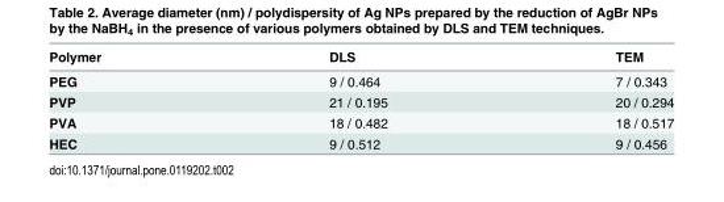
<table><thead><tr><td>Polymer</td><td>DLS</td><td>TEM</td></tr></thead><tbody><tr><td>PEG</td><td>9 / 0.464</td><td>7 / 0.343</td></tr><tr><td>PVP</td><td>21 / 0.195</td><td>20 / 0.294</td></tr><tr><td>PVA</td><td>18 / 0.482</td><td>18 / 0.517</td></tr><tr><td>HEC</td><td>9 / 0.512</td><td>9 / 0.456</td></tr></tbody></table>